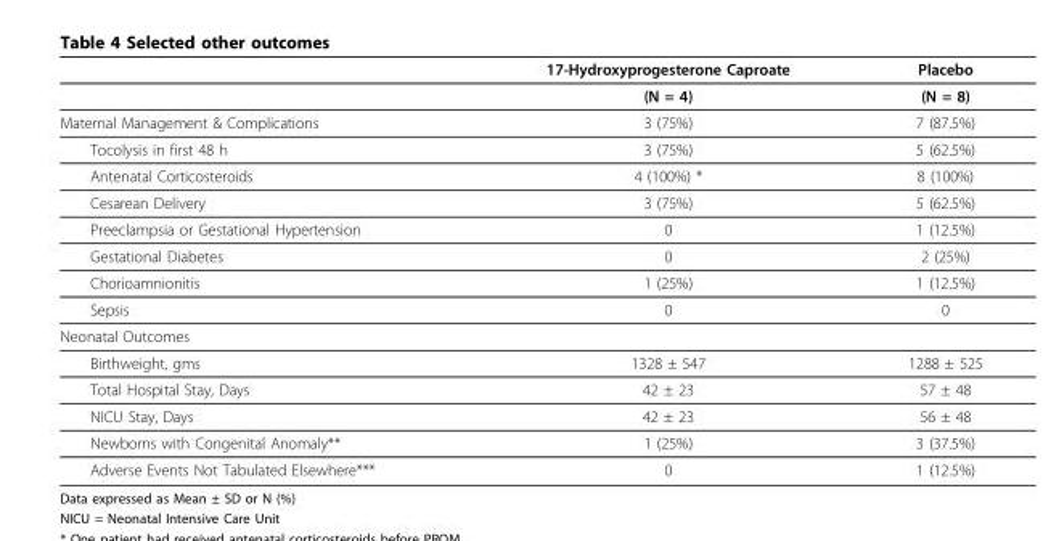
<table><thead><tr><td></td><td>17-Hydroxyprogesterone Caproate</td><td>Placebo</td></tr></thead><tbody><tr><td></td><td>(N = 4)</td><td>(N = 8)</td></tr><tr><td>Maternal Management &amp; Complications</td><td>3 (75%)</td><td>7 (87.5%)</td></tr><tr><td>Tocolysis in first 48 h</td><td>3 (75%)</td><td>5 (62.5%)</td></tr><tr><td>Antenatal Corticosteroids</td><td>4 (100%) *</td><td>8 (100%)</td></tr><tr><td>Cesarean Delivery</td><td>3 (75%)</td><td>5 (62.5%)</td></tr><tr><td>Preeclampsia or Gestational Hypertension</td><td>0</td><td>1 (12.5%)</td></tr><tr><td>Gestational Diabetes</td><td>0</td><td>2 (25%)</td></tr><tr><td>Chorioamnionitis</td><td>1 (25%)</td><td>1 (12.5%)</td></tr><tr><td>Sepsis</td><td>0</td><td>0</td></tr><tr><td colspan="3">Neonatal Outcomes</td></tr><tr><td>Birthweight, gms</td><td>1328 ± 547</td><td>1288 ± 525</td></tr><tr><td>Total Hospital Stay, Days</td><td>42 ± 23</td><td>57 ± 48</td></tr><tr><td>NICU Stay, Days</td><td>42 ± 23</td><td>56 ± 48</td></tr><tr><td>Newborns with Congenital Anomaly**</td><td>1 (25%)</td><td>3 (37.5%)</td></tr><tr><td>Adverse Events Not Tabulated Elsewhere***</td><td>0</td><td>1 (12.5%)</td></tr></tbody></table>